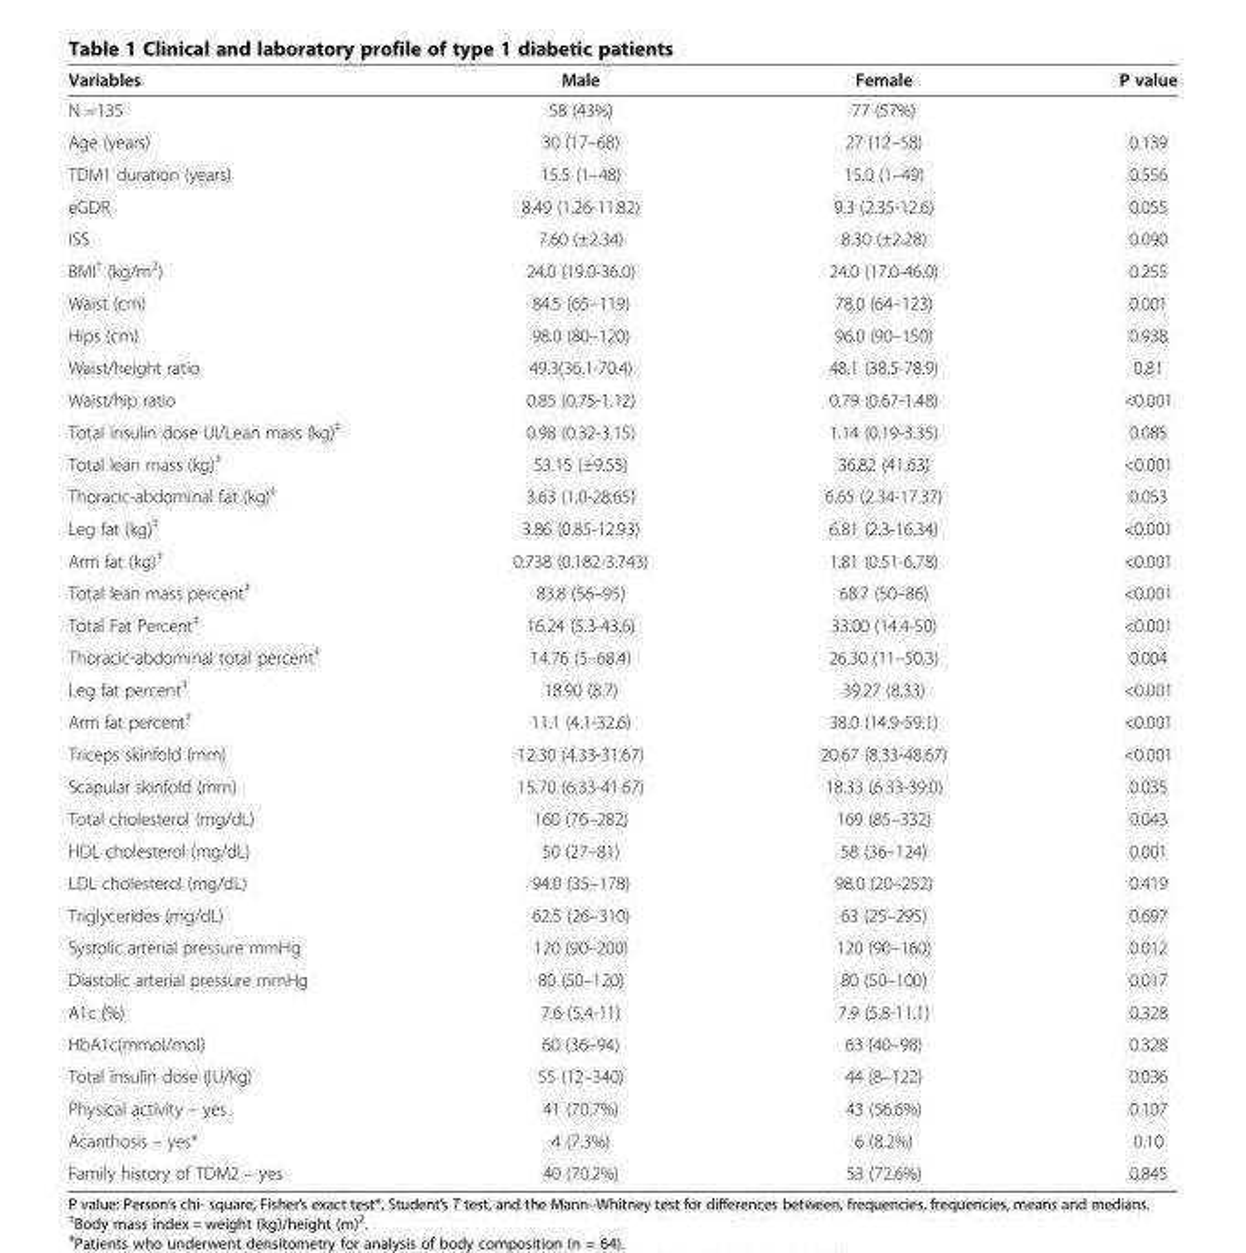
<table><thead><tr><td>Variables</td><td>Male</td><td>Female</td><td>P value</td></tr></thead><tbody><tr><td>N =135</td><td>58 (43%)</td><td>77 (57%)</td><td></td></tr><tr><td>Age (years)</td><td>30 (17–68)</td><td>27 (12–58)</td><td>0.139</td></tr><tr><td>TDM1 duration (years)</td><td>15.5 (1–48)</td><td>15.0 (1–49)</td><td>0.556</td></tr><tr><td>eGDR</td><td>8.49 (1.26-11.82)</td><td>9.3 (2.35-12.6)</td><td>0.055</td></tr><tr><td>ISS</td><td>7.60 (±2.34)</td><td>8.30 (±2.28)</td><td>0.090</td></tr><tr><td>BMI<sup>†</sup> (kg/m<sup>2</sup>)</td><td>24.0 (19.0-36.0)</td><td>24.0 (17.0-46.0)</td><td>0.255</td></tr><tr><td>Waist (cm)</td><td>84.5 (65–119)</td><td>78.0 (64–123)</td><td>0.001</td></tr><tr><td>Hips (cm)</td><td>98.0 (80–120)</td><td>96.0 (90–150)</td><td>0.938</td></tr><tr><td>Waist/height ratio</td><td>49.3(36.1-70.4)</td><td>48.1 (38.5-78.9)</td><td>0.81</td></tr><tr><td>Waist/hip ratio</td><td>0.85 (0.75-1.12)</td><td>0.79 (0.67-1.48)</td><td>&lt;0.001</td></tr><tr><td>Total insulin dose UI/Lean mass (kg)<sup>‡</sup></td><td>0.98 (0.32-3.15)</td><td>1.14 (0.19-3.35)</td><td>0.085</td></tr><tr><td>Total lean mass (kg)<sup>‡</sup></td><td>53.15 (±9.55)</td><td>36.82 (41.63)</td><td>&lt;0.001</td></tr><tr><td>Thoracic-abdominal fat (kg)<sup>‡</sup></td><td>3.63 (1.0-28.65)</td><td>6.65 (2.34-17.37)</td><td>0.053</td></tr><tr><td>Leg fat (kg)<sup>‡</sup></td><td>3.86 (0.85-12.93)</td><td>6.81 (2.3-16.34)</td><td>&lt;0.001</td></tr><tr><td>Arm fat (kg)<sup>‡</sup></td><td>0.738 (0.182-3.743)</td><td>1.81 (0.51-6.78)</td><td>&lt;0.001</td></tr><tr><td>Total lean mass percent<sup>‡</sup></td><td>83.8 (56–95)</td><td>68.7 (50–86)</td><td>&lt;0.001</td></tr><tr><td>Total Fat Percent<sup>‡</sup></td><td>16.24 (5.3-43.6)</td><td>33.00 (14.4-50)</td><td>&lt;0.001</td></tr><tr><td>Thoracic-abdominal total percent<sup>‡</sup></td><td>14.76 (5–68.4)</td><td>26.30 (11–50.3)</td><td>0.004</td></tr><tr><td>Leg fat percent<sup>‡</sup></td><td>18.90 (8.7)</td><td>39.27 (8.33)</td><td>&lt;0.001</td></tr><tr><td>Arm fat percent<sup>‡</sup></td><td>11.1 (4.1-32.6)</td><td>38.0 (14.9-59.1)</td><td>&lt;0.001</td></tr><tr><td>Triceps skinfold (mm)</td><td>12.30 (4.33-31.67)</td><td>20.67 (8.33-48.67)</td><td>&lt;0.001</td></tr><tr><td>Scapular skinfold (mm)</td><td>15.70 (6.33-41.67)</td><td>18.33 (6.33-39.0)</td><td>0.035</td></tr><tr><td>Total cholesterol (mg/dL)</td><td>160 (76–282)</td><td>169 (85–332)</td><td>0.043</td></tr><tr><td>HDL cholesterol (mg/dL)</td><td>50 (27–81)</td><td>58 (36–124)</td><td>0.001</td></tr><tr><td>LDL cholesterol (mg/dL)</td><td>94.0 (35–178)</td><td>98.0 (20–252)</td><td>0.419</td></tr><tr><td>Triglycerides (mg/dL)</td><td>62.5 (26–310)</td><td>63 (25–295)</td><td>0.697</td></tr><tr><td>Systolic arterial pressure mmHg</td><td>120 (90–200)</td><td>120 (90–160)</td><td>0.012</td></tr><tr><td>Diastolic arterial pressure mmHg</td><td>80 (50–120)</td><td>80 (50–100)</td><td>0.017</td></tr><tr><td>A1c (%)</td><td>7.6 (5.4-11)</td><td>7.9 (5.8-11.1)</td><td>0.328</td></tr><tr><td>HbA1c(mmol/mol)</td><td>60 (36–94)</td><td>63 (40–98)</td><td>0.328</td></tr><tr><td>Total insulin dose (IU/kg)</td><td>55 (12–340)</td><td>44 (8–122)</td><td>0.036</td></tr><tr><td>Physical activity – yes</td><td>41 (70.7%)</td><td>43 (56.6%)</td><td>0.107</td></tr><tr><td>Acanthosis – yes*</td><td>4 (7.3%)</td><td>6 (8.2%)</td><td>0.10</td></tr><tr><td>Family history of TDM2 – yes</td><td>40 (70.2%)</td><td>53 (72.6%)</td><td>0.845</td></tr></tbody></table>